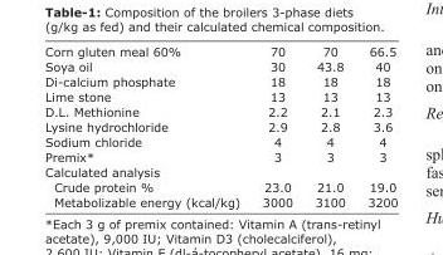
<table><thead><tr><td>Corn gluten meal 60%</td><td>70</td><td>70</td><td>66.5</td></tr></thead><tbody><tr><td>Soya oil</td><td>30</td><td>43.8</td><td>40</td></tr><tr><td>Di-calcium phosphate</td><td>18</td><td>18</td><td>18</td></tr><tr><td>Lime stone</td><td>13</td><td>13</td><td>13</td></tr><tr><td>D.L. Methionine</td><td>2.2</td><td>2.1</td><td>2.3</td></tr><tr><td>Lysine hydrochloride</td><td>2.9</td><td>2.8</td><td>3.6</td></tr><tr><td>Sodium chloride</td><td>4</td><td>4</td><td>4</td></tr><tr><td>Premix*</td><td>3</td><td>3</td><td>3</td></tr><tr><td colspan="4">Calculated analysis</td></tr><tr><td>Crude protein %</td><td>23.0</td><td>21.0</td><td>19.0</td></tr><tr><td>Metabolizable energy (kcal/kg)</td><td>3000</td><td>3100</td><td>3200</td></tr></tbody></table>